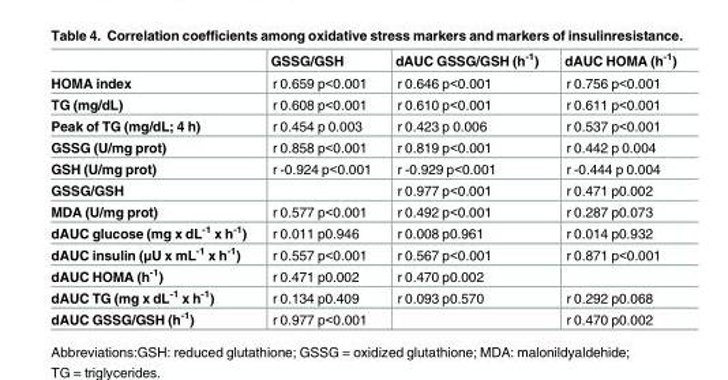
<table><thead><tr><td></td><td>GSSG/GSH</td><td>dAUC GSSG/GSH (h<sup>-1</sup>)</td><td>dAUC HOMA (h<sup>-1</sup>)</td></tr></thead><tbody><tr><td>HOMA index</td><td>r 0.659 p&lt;0.001</td><td>r 0.646 p&lt;0.001</td><td>r 0.756 p&lt;0.001</td></tr><tr><td>TG (mg/dL)</td><td>r 0.608 p&lt;0.001</td><td>r 0.610 p&lt;0.001</td><td>r 0.611 p&lt;0.001</td></tr><tr><td>Peak of TG (mg/dL; 4 h)</td><td>r 0.454 p 0.003</td><td>r 0.423 p 0.006</td><td>r 0.537 p&lt;0.001</td></tr><tr><td>GSSG (U/mg prot)</td><td>r 0.858 p&lt;0.001</td><td>r 0.819 p&lt;0.001</td><td>r 0.442 p 0.004</td></tr><tr><td>GSH (U/mg prot)</td><td>r -0.924 p&lt;0.001</td><td>r -0.929 p&lt;0.001</td><td>r -0.444 p 0.004</td></tr><tr><td>GSSG/GSH</td><td></td><td>r 0.977 p&lt;0.001</td><td>r 0.471 p0.002</td></tr><tr><td>MDA (U/mg prot)</td><td>r 0.577 p&lt;0.001</td><td>r 0.492 p&lt;0.001</td><td>r 0.287 p0.073</td></tr><tr><td>dAUC glucose (mg x dL<sup>-1</sup> x h<sup>-1</sup>)</td><td>r 0.011 p0.946</td><td>r 0.008 p0.961</td><td>r 0.014 p0.932</td></tr><tr><td>dAUC insulin (μU x mL<sup>-1</sup> x h<sup>-1</sup>)</td><td>r 0.557 p&lt;0.001</td><td>r 0.567 p&lt;0.001</td><td>r 0.871 p&lt;0.001</td></tr><tr><td>dAUC HOMA (h<sup>-1</sup>)</td><td>r 0.471 p0.002</td><td>r 0.470 p0.002</td><td></td></tr><tr><td>dAUC TG (mg x dL<sup>-1</sup> x h<sup>-1</sup>)</td><td>r 0.134 p0.409</td><td>r 0.093 p0.570</td><td>r 0.292 p0.068</td></tr><tr><td>dAUC GSSG/GSH (h<sup>-1</sup>)</td><td>r 0.977 p&lt;0.001</td><td></td><td>r 0.470 p0.002</td></tr></tbody></table>